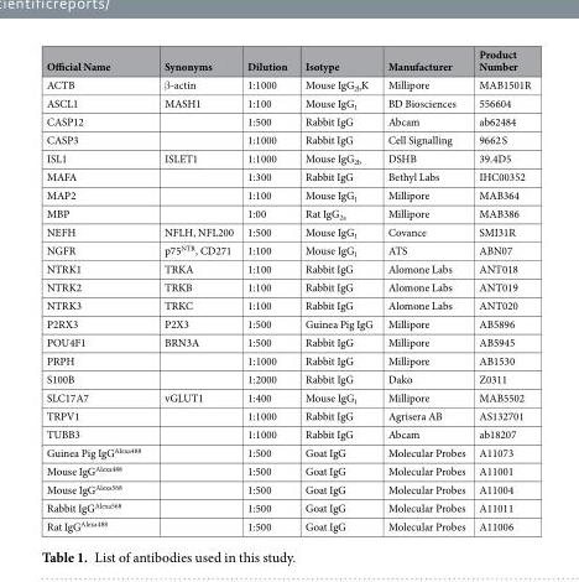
<table><thead><tr><td>Official Name</td><td>Synonyms</td><td>Dilution</td><td>Isotype</td><td>Manufacturer</td><td>Product Number</td></tr></thead><tbody><tr><td>ACTB</td><td>β-actin</td><td>1:1000</td><td>Mouse IgG<sub>2b</sub>K</td><td>Millipore</td><td>MAB1501R</td></tr><tr><td>ASCL1</td><td>MASH1</td><td>1:100</td><td>Mouse IgG<sub>1</sub></td><td>BD Biosciences</td><td>556604</td></tr><tr><td>CASP12</td><td></td><td>1:500</td><td>Rabbit IgG</td><td>Abcam</td><td>ab62484</td></tr><tr><td>CASP3</td><td></td><td>1:1000</td><td>Rabbit IgG</td><td>Cell Signalling</td><td>9662 S</td></tr><tr><td>ISL1</td><td>ISLET1</td><td>1:1000</td><td>Mouse IgG<sub>2b</sub></td><td>DSHB</td><td>39.4D5</td></tr><tr><td>MAFA</td><td></td><td>1:300</td><td>Rabbit IgG</td><td>Bethyl Labs</td><td>IHC00352</td></tr><tr><td>MAP2</td><td></td><td>1:100</td><td>Mouse IgG<sub>1</sub></td><td>Millipore</td><td>MAB364</td></tr><tr><td>MBP</td><td></td><td>1:00</td><td>Rat IgG<sub>2a</sub></td><td>Millipore</td><td>MAB386</td></tr><tr><td>NEFH</td><td>NFLH, NFL200</td><td>1:500</td><td>Mouse IgG<sub>1</sub></td><td>Covance</td><td>SMI31R</td></tr><tr><td>NGFR</td><td>p75<sup>NTR</sup>, CD271</td><td>1:100</td><td>Mouse IgG<sub>1</sub></td><td>ATS</td><td>ABN07</td></tr><tr><td>NTRK1</td><td>TRKA</td><td>1:100</td><td>Rabbit IgG</td><td>Alomone Labs</td><td>ANT018</td></tr><tr><td>NTRK2</td><td>TRKB</td><td>1:100</td><td>Rabbit IgG</td><td>Alomone Labs</td><td>ANT019</td></tr><tr><td>NTRK3</td><td>TRKC</td><td>1:100</td><td>Rabbit IgG</td><td>Alomone Labs</td><td>ANT020</td></tr><tr><td>P2RX3</td><td>P2X3</td><td>1:500</td><td>Guinea Pig IgG</td><td>Millipore</td><td>AB5896</td></tr><tr><td>POU4F1</td><td>BRN3A</td><td>1:500</td><td>Rabbit IgG</td><td>Millipore</td><td>AB5945</td></tr><tr><td>PRPH</td><td></td><td>1:1000</td><td>Rabbit IgG</td><td>Millipore</td><td>AB1530</td></tr><tr><td>S100B</td><td></td><td>1:2000</td><td>Rabbit IgG</td><td>Dako</td><td>Z0311</td></tr><tr><td>SLC17A7</td><td>vGLUT1</td><td>1:400</td><td>Mouse IgG<sub>1</sub></td><td>Millipore</td><td>MAB5502</td></tr><tr><td>TRPV1</td><td></td><td>1:1000</td><td>Rabbit IgG</td><td>Agrisera AB</td><td>AS132701</td></tr><tr><td>TUBB3</td><td></td><td>1:1000</td><td>Rabbit IgG</td><td>Abcam</td><td>ab18207</td></tr><tr><td>Guinea Pig IgG<sup>Alexa488</sup></td><td></td><td>1:500</td><td>Goat IgG</td><td>Molecular Probes</td><td>A11073</td></tr><tr><td>Mouse IgG<sup>Alexa488</sup></td><td></td><td>1:500</td><td>Goat IgG</td><td>Molecular Probes</td><td>A11001</td></tr><tr><td>Mouse IgG<sup>Alexa568</sup></td><td></td><td>1:500</td><td>Goat IgG</td><td>Molecular Probes</td><td>A11004</td></tr><tr><td>Rabbit IgG<sup>Alexa568</sup></td><td></td><td>1:500</td><td>Goat IgG</td><td>Molecular Probes</td><td>A11011</td></tr><tr><td>Rat IgG<sup>Alexa488</sup></td><td></td><td>1:500</td><td>Goat IgG</td><td>Molecular Probes</td><td>A11006</td></tr></tbody></table>